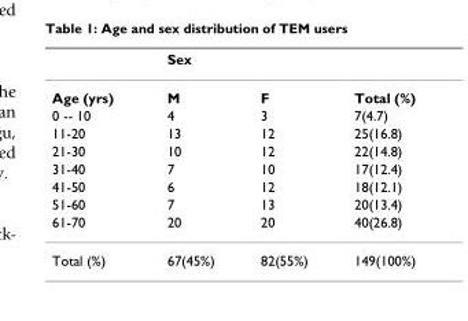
<table><thead><tr><td rowspan="2">Age (yrs)</td><td colspan="2">Sex</td><td rowspan="2">Total (%)</td></tr><tr><td>M</td><td>F</td></tr></thead><tbody><tr><td>0 -- 10</td><td>4</td><td>3</td><td>7(4.7)</td></tr><tr><td>11-20</td><td>13</td><td>12</td><td>25(16.8)</td></tr><tr><td>21-30</td><td>10</td><td>12</td><td>22(14.8)</td></tr><tr><td>31-40</td><td>7</td><td>10</td><td>17(12.4)</td></tr><tr><td>41-50</td><td>6</td><td>12</td><td>18(12.1)</td></tr><tr><td>51-60</td><td>7</td><td>13</td><td>20(13.4)</td></tr><tr><td>61-70</td><td>20</td><td>20</td><td>40(26.8)</td></tr><tr><td>Total (%)</td><td>67(45%)</td><td>82(55%)</td><td>149(100%)</td></tr></tbody></table>